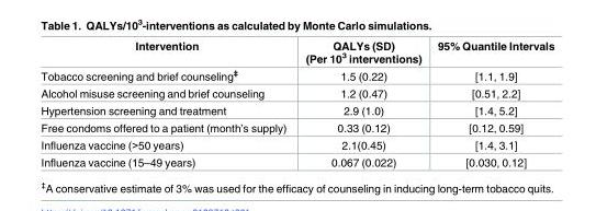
<table><thead><tr><td>Intervention</td><td>QALYs (SD) (Per 10<sup>3</sup> interventions)</td><td>95% Quantile Intervals</td></tr></thead><tbody><tr><td>Tobacco screening and brief counseling‡</td><td>1.5 (0.22)</td><td>[1.1, 1.9]</td></tr><tr><td>Alcohol misuse screening and brief counseling</td><td>1.2 (0.47)</td><td>[0.51, 2.2]</td></tr><tr><td>Hypertension screening and treatment</td><td>2.9 (1.0)</td><td>[1.4, 5.2]</td></tr><tr><td>Free condoms offered to a patient (month’s supply)</td><td>0.33 (0.12)</td><td>[0.12, 0.59]</td></tr><tr><td>Influenza vaccine (&gt;50 years)</td><td>2.1(0.45)</td><td>[1.4, 3.1]</td></tr><tr><td>Influenza vaccine (15–49 years)</td><td>0.067 (0.022)</td><td>[0.030, 0.12]</td></tr></tbody></table>